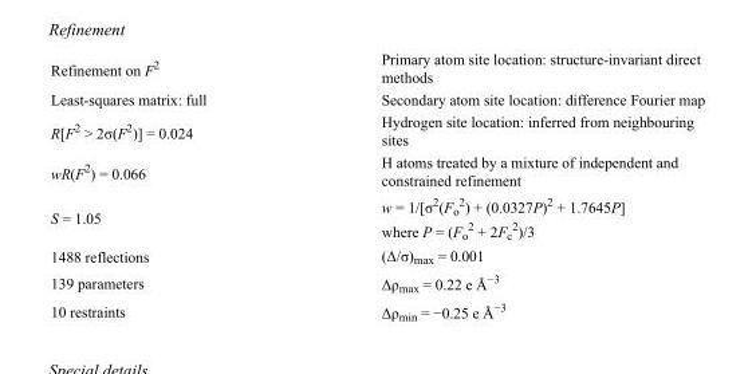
<table><tbody><tr><td>Refinement on F<sup>2</sup></td><td>Primary atom site location: structure-invariant direct methods</td></tr><tr><td>Least-squares matrix: full</td><td>Secondary atom site location: difference Fourier map</td></tr><tr><td>R[F<sup>2</sup> &gt; 2σ(F<sup>2</sup>)] = 0.024</td><td>Hydrogen site location: inferred from neighbouring sites</td></tr><tr><td>wR(F<sup>2</sup>) = 0.066</td><td>H atoms treated by a mixture of independent and constrained refinement</td></tr><tr><td>S = 1.05</td><td>w = 1/[σ<sup>2</sup>(F<sub>o</sub> <sup>2</sup>) + (0.0327P)<sup>2</sup> + 1.7645P] where P = (F<sub>o</sub> <sup>2</sup> + 2F<sub>c</sub> <sup>2</sup>)/3</td></tr><tr><td>1488 reflections</td><td>(Δ/σ)<sub>max</sub> = 0.001</td></tr><tr><td>139 parameters</td><td>Δρ<sub>max</sub> = 0.22 e Å<sup>−3</sup></td></tr><tr><td>10 restraints</td><td>Δρ<sub>min</sub> = −0.25 e Å<sup>−3</sup></td></tr></tbody></table>